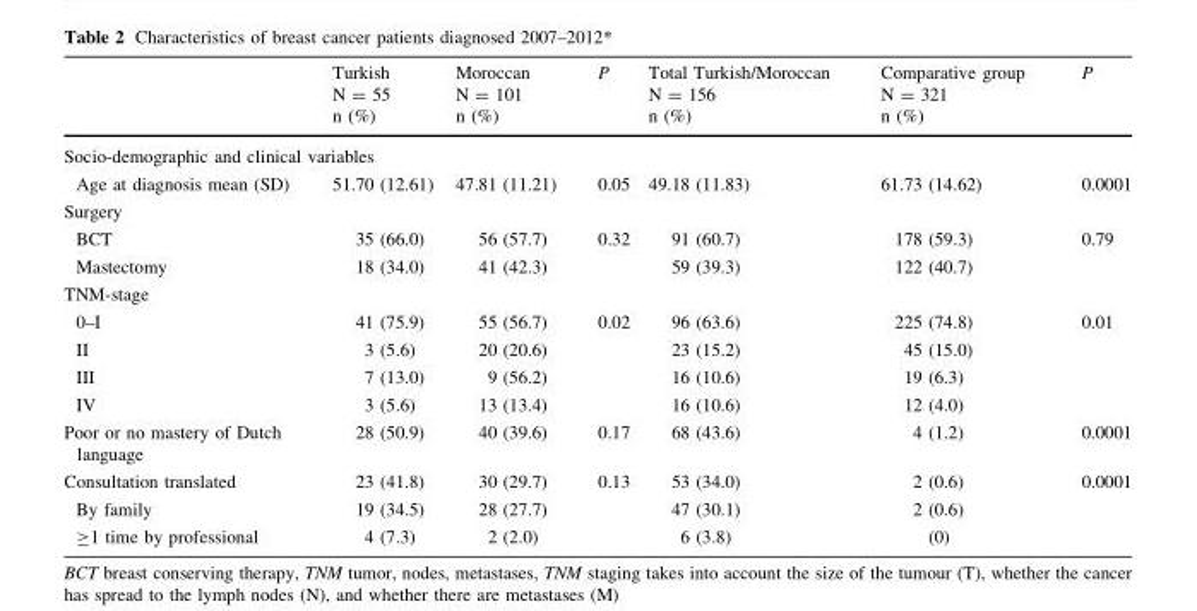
<table><thead><tr><td></td><td>Turkish N = 55 n (%)</td><td>Moroccan N = 101 n (%)</td><td>P</td><td>Total Turkish/Moroccan N = 156 n (%)</td><td>Comparative group N = 321 n (%)</td><td>P</td></tr></thead><tbody><tr><td colspan="7">Socio-demographic and clinical variables</td></tr><tr><td>Age at diagnosis mean (SD)</td><td>51.70 (12.61)</td><td>47.81 (11.21)</td><td>0.05</td><td>49.18 (11.83)</td><td>61.73 (14.62)</td><td>0.0001</td></tr><tr><td colspan="7">Surgery</td></tr><tr><td>BCT</td><td>35 (66.0)</td><td>56 (57.7)</td><td>0.32</td><td>91 (60.7)</td><td>178 (59.3)</td><td>0.79</td></tr><tr><td>Mastectomy</td><td>18 (34.0)</td><td>41 (42.3)</td><td></td><td>59 (39.3)</td><td>122 (40.7)</td><td></td></tr><tr><td colspan="7">TNM-stage</td></tr><tr><td>0–I</td><td>41 (75.9)</td><td>55 (56.7)</td><td>0.02</td><td>96 (63.6)</td><td>225 (74.8)</td><td>0.01</td></tr><tr><td>II</td><td>3 (5.6)</td><td>20 (20.6)</td><td></td><td>23 (15.2)</td><td>45 (15.0)</td><td></td></tr><tr><td>III</td><td>7 (13.0)</td><td>9 (56.2)</td><td></td><td>16 (10.6)</td><td>19 (6.3)</td><td></td></tr><tr><td>IV</td><td>3 (5.6)</td><td>13 (13.4)</td><td></td><td>16 (10.6)</td><td>12 (4.0)</td><td></td></tr><tr><td>Poor or no mastery of Dutch language</td><td>28 (50.9)</td><td>40 (39.6)</td><td>0.17</td><td>68 (43.6)</td><td>4 (1.2)</td><td>0.0001</td></tr><tr><td>Consultation translated</td><td>23 (41.8)</td><td>30 (29.7)</td><td>0.13</td><td>53 (34.0)</td><td>2 (0.6)</td><td>0.0001</td></tr><tr><td>By family</td><td>19 (34.5)</td><td>28 (27.7)</td><td></td><td>47 (30.1)</td><td>2 (0.6)</td><td></td></tr><tr><td>≥1 time by professional</td><td>4 (7.3)</td><td>2 (2.0)</td><td></td><td>6 (3.8)</td><td>(0)</td><td></td></tr></tbody></table>